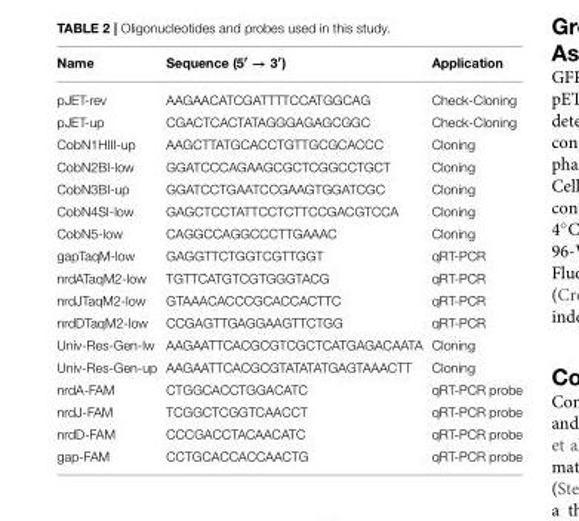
<table><thead><tr><td>Name</td><td>Sequence (5′ → 3′)</td><td>Application</td></tr></thead><tbody><tr><td>pJET-rev</td><td>AAGAACATCGATTTTCCATGGCAG</td><td>Check-Cloning</td></tr><tr><td>pJET-up</td><td>CGACTCACTATAGGGAGAGCGGC</td><td>Check-Cloning</td></tr><tr><td>CobN1HIII-up</td><td>AAGCTTATGCACCTGTTGCGCACCC</td><td>Cloning</td></tr><tr><td>CobN2BI-low</td><td>GGATCCCAGAAGCGCTCGGCCTGCT</td><td>Cloning</td></tr><tr><td>CobN3BI-up</td><td>GGATCCTGAATCCGAAGTGGATCGC</td><td>Cloning</td></tr><tr><td>CobN4SI-low</td><td>GAGCTCCTATTCCTCTTCCGACGTCCA</td><td>Cloning</td></tr><tr><td>CobN5-low</td><td>CAGGCCAGGCCCTTGAAAC</td><td>Cloning</td></tr><tr><td>gapTaqM-low</td><td>GAGGTTCTGGTCGTTGGT</td><td>qRT-PCR</td></tr><tr><td>nrdATaqM2-low</td><td>TGTTCATGTCGTGGGTACG</td><td>qRT-PCR</td></tr><tr><td>nrdJTaqM2-low</td><td>GTAAACACCCGCACCACTTC</td><td>qRT-PCR</td></tr><tr><td>nrdDTaqM2-low</td><td>CCGAGTTGAGGAAGTTCTGG</td><td>qRT-PCR</td></tr><tr><td>Univ-Res-Gen-lw</td><td>AAGAATTCACGCGTCGCTCATGAGACAATA</td><td>Cloning</td></tr><tr><td>Univ-Res-Gen-up</td><td>AAGAATTCACGCGTATATATGAGTAAACTT</td><td>Cloning</td></tr><tr><td>nrdA-FAM</td><td>CTGGCACCTGGACATC</td><td>qRT-PCR probe</td></tr><tr><td>nrdJ-FAM</td><td>TCGGCTCGGTCAACCT</td><td>qRT-PCR probe</td></tr><tr><td>nrdD-FAM</td><td>CCCGACCTACAACATC</td><td>qRT-PCR probe</td></tr><tr><td>gap-FAM</td><td>CCTGCACCACCAACTG</td><td>qRT-PCR probe</td></tr></tbody></table>